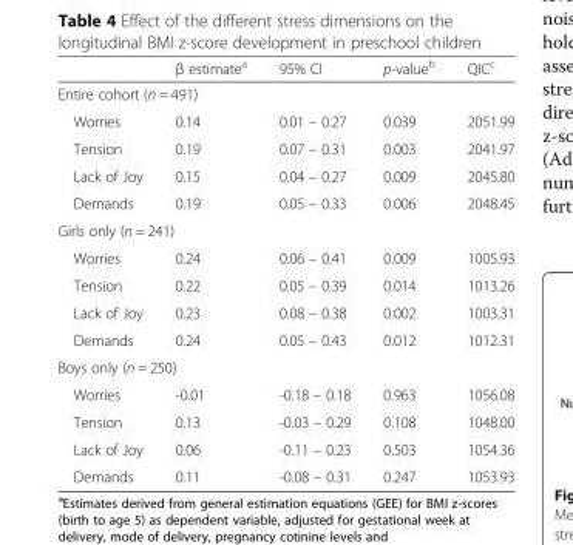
<table><thead><tr><td></td><td>β estimate<sup>a</sup></td><td>95% CI</td><td>p-value<sup>b</sup></td><td>QIC<sup>c</sup></td></tr></thead><tbody><tr><td colspan="5">Entire cohort (n = 491)</td></tr><tr><td>Worries</td><td>0.14</td><td>0.01 – 0.27</td><td>0.039</td><td>2051.99</td></tr><tr><td>Tension</td><td>0.19</td><td>0.07 – 0.31</td><td>0.003</td><td>2041.97</td></tr><tr><td>Lack of Joy</td><td>0.15</td><td>0.04 – 0.27</td><td>0.009</td><td>2045.80</td></tr><tr><td>Demands</td><td>0.19</td><td>0.05 – 0.33</td><td>0.006</td><td>2048.45</td></tr><tr><td colspan="5">Girls only (n = 241)</td></tr><tr><td>Worries</td><td>0.24</td><td>0.06 – 0.41</td><td>0.009</td><td>1005.93</td></tr><tr><td>Tension</td><td>0.22</td><td>0.05 – 0.39</td><td>0.014</td><td>1013.26</td></tr><tr><td>Lack of Joy</td><td>0.23</td><td>0.08 – 0.38</td><td>0.002</td><td>1003.31</td></tr><tr><td>Demands</td><td>0.24</td><td>0.05 – 0.43</td><td>0.012</td><td>1012.31</td></tr><tr><td colspan="5">Boys only (n = 250)</td></tr><tr><td>Worries</td><td>-0.01</td><td>-0.18 – 0.18</td><td>0.963</td><td>1056.08</td></tr><tr><td>Tension</td><td>0.13</td><td>-0.03 – 0.29</td><td>0.108</td><td>1048.00</td></tr><tr><td>Lack of Joy</td><td>0.06</td><td>-0.11 – 0.23</td><td>0.503</td><td>1054.36</td></tr><tr><td>Demands</td><td>0.11</td><td>-0.08 – 0.31</td><td>0.247</td><td>1053.93</td></tr></tbody></table>